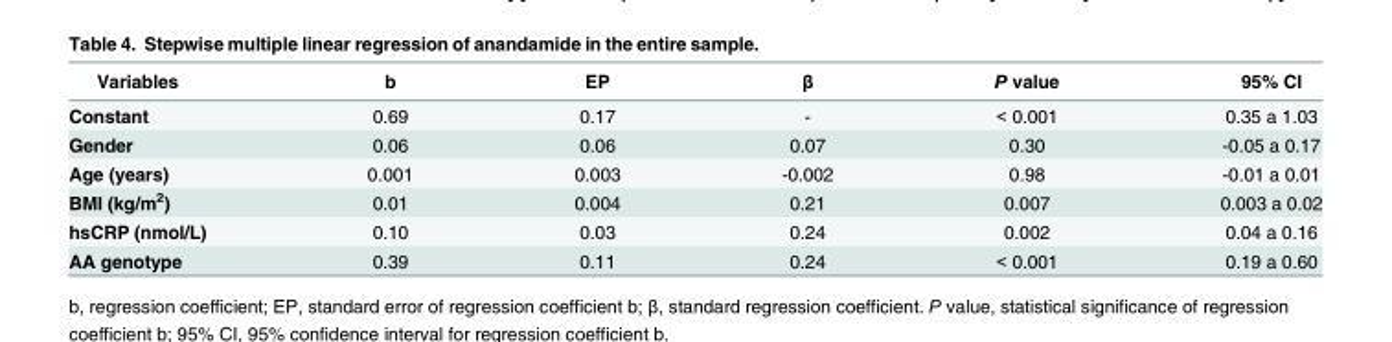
<table><thead><tr><td>Variables</td><td>b</td><td>EP</td><td>β</td><td>P value</td><td>95% CI</td></tr></thead><tbody><tr><td>Constant</td><td>0.69</td><td>0.17</td><td>-</td><td>&lt; 0.001</td><td>0.35 a 1.03</td></tr><tr><td>Gender</td><td>0.06</td><td>0.06</td><td>0.07</td><td>0.30</td><td>-0.05 a 0.17</td></tr><tr><td>Age (years)</td><td>0.001</td><td>0.003</td><td>-0.002</td><td>0.98</td><td>-0.01 a 0.01</td></tr><tr><td>BMI (kg/m<sup>2</sup>)</td><td>0.01</td><td>0.004</td><td>0.21</td><td>0.007</td><td>0.003 a 0.02</td></tr><tr><td>hsCRP (nmol/L)</td><td>0.10</td><td>0.03</td><td>0.24</td><td>0.002</td><td>0.04 a 0.16</td></tr><tr><td>AA genotype</td><td>0.39</td><td>0.11</td><td>0.24</td><td>&lt; 0.001</td><td>0.19 a 0.60</td></tr></tbody></table>